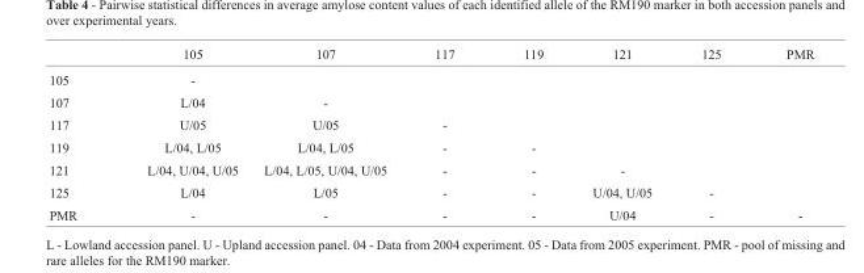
<table><thead><tr><td></td><td>105</td><td>107</td><td>117</td><td>119</td><td>121</td><td>125</td><td>PMR</td></tr></thead><tbody><tr><td>105</td><td>-</td><td></td><td></td><td></td><td></td><td></td><td></td></tr><tr><td>107</td><td>L/04</td><td>-</td><td></td><td></td><td></td><td></td><td></td></tr><tr><td>117</td><td>U/05</td><td>U/05</td><td>-</td><td></td><td></td><td></td><td></td></tr><tr><td>119</td><td>L/04, L/05</td><td>L/04, L/05</td><td>-</td><td>-</td><td></td><td></td><td></td></tr><tr><td>121</td><td>L/04, U/04, U/05</td><td>L/04, L/05, U/04, U/05</td><td>-</td><td>-</td><td>-</td><td></td><td></td></tr><tr><td>125</td><td>L/04</td><td>L/05</td><td>-</td><td>-</td><td>U/04, U/05</td><td>-</td><td></td></tr><tr><td>PMR</td><td>-</td><td>-</td><td>-</td><td>-</td><td>U/04</td><td>-</td><td>-</td></tr></tbody></table>